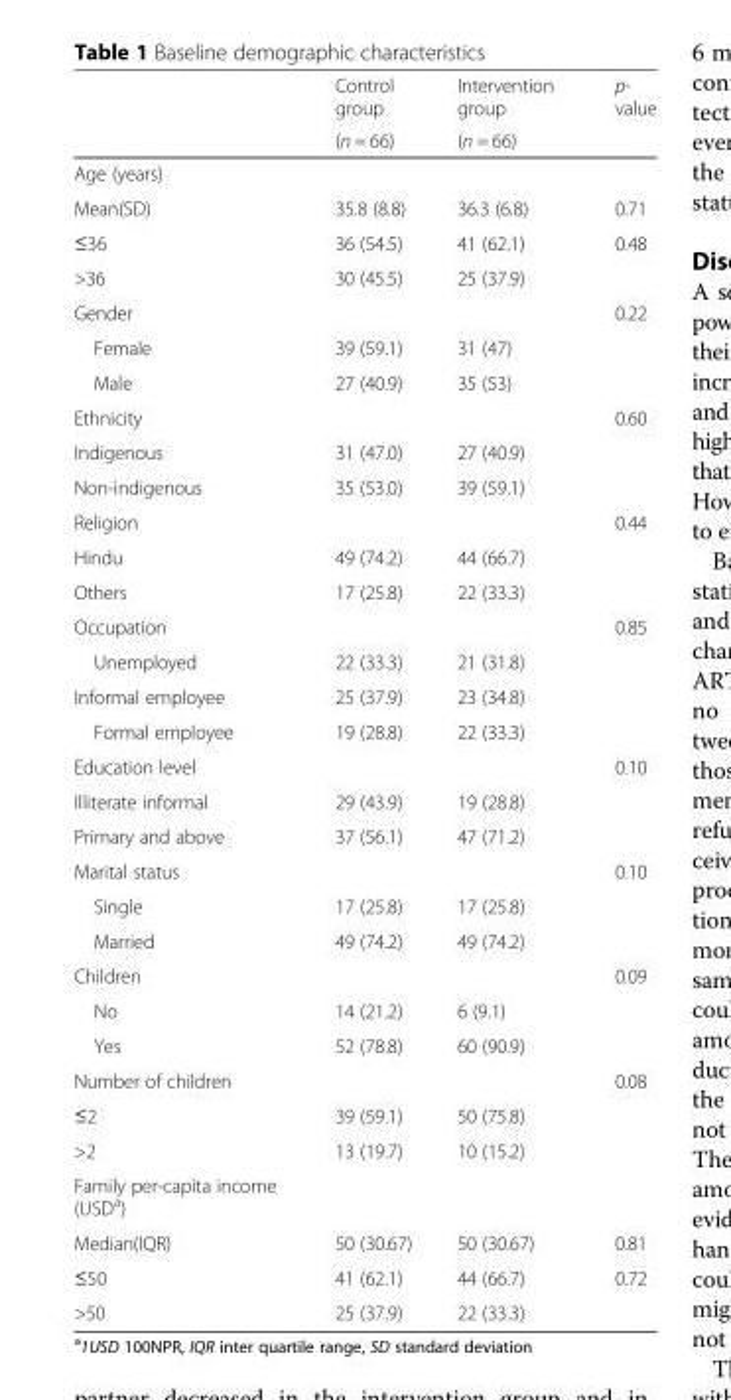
<table><thead><tr><td rowspan="2"></td><td rowspan="2">Control group (n = 66)</td><td rowspan="2">Intervention group (n = 66)</td><td rowspan="2">p- value</td></tr><tr></tr></thead><tbody><tr><td colspan="4">Age (years)</td></tr><tr><td>Mean(SD)</td><td>35.8 (8.8)</td><td>36.3 (6.8)</td><td>0.71</td></tr><tr><td>≤36</td><td>36 (54.5)</td><td>41 (62.1)</td><td>0.48</td></tr><tr><td>&gt;36</td><td>30 (45.5)</td><td>25 (37.9)</td><td></td></tr><tr><td>Gender</td><td></td><td></td><td>0.22</td></tr><tr><td>Female</td><td>39 (59.1)</td><td>31 (47)</td><td></td></tr><tr><td>Male</td><td>27 (40.9)</td><td>35 (53)</td><td></td></tr><tr><td>Ethnicity</td><td></td><td></td><td>0.60</td></tr><tr><td>Indigenous</td><td>31 (47.0)</td><td>27 (40.9)</td><td></td></tr><tr><td>Non-indigenous</td><td>35 (53.0)</td><td>39 (59.1)</td><td></td></tr><tr><td>Religion</td><td></td><td></td><td>0.44</td></tr><tr><td>Hindu</td><td>49 (74.2)</td><td>44 (66.7)</td><td></td></tr><tr><td>Others</td><td>17 (25.8)</td><td>22 (33.3)</td><td></td></tr><tr><td>Occupation</td><td></td><td></td><td>0.85</td></tr><tr><td>Unemployed</td><td>22 (33.3)</td><td>21 (31.8)</td><td></td></tr><tr><td>Informal employee</td><td>25 (37.9)</td><td>23 (34.8)</td><td></td></tr><tr><td>Formal employee</td><td>19 (28.8)</td><td>22 (33.3)</td><td></td></tr><tr><td>Education level</td><td></td><td></td><td>0.10</td></tr><tr><td>Illiterate informal</td><td>29 (43.9)</td><td>19 (28.8)</td><td></td></tr><tr><td>Primary and above</td><td>37 (56.1)</td><td>47 (71.2)</td><td></td></tr><tr><td>Marital status</td><td></td><td></td><td>0.10</td></tr><tr><td>Single</td><td>17 (25.8)</td><td>17 (25.8)</td><td></td></tr><tr><td>Married</td><td>49 (74.2)</td><td>49 (74.2)</td><td></td></tr><tr><td>Children</td><td></td><td></td><td>0.09</td></tr><tr><td>No</td><td>14 (21.2)</td><td>6 (9.1)</td><td></td></tr><tr><td>Yes</td><td>52 (78.8)</td><td>60 (90.9)</td><td></td></tr><tr><td>Number of children</td><td></td><td></td><td>0.08</td></tr><tr><td>≤2</td><td>39 (59.1)</td><td>50 (75.8)</td><td></td></tr><tr><td>&gt;2</td><td>13 (19.7)</td><td>10 (15.2)</td><td></td></tr><tr><td colspan="4">Family per-capita income (USD<sup>a</sup>)</td></tr><tr><td>Median(IQR)</td><td>50 (30.67)</td><td>50 (30.67)</td><td>0.81</td></tr><tr><td>≤50</td><td>41 (62.1)</td><td>44 (66.7)</td><td>0.72</td></tr><tr><td>&gt;50</td><td>25 (37.9)</td><td>22 (33.3)</td><td></td></tr></tbody></table>